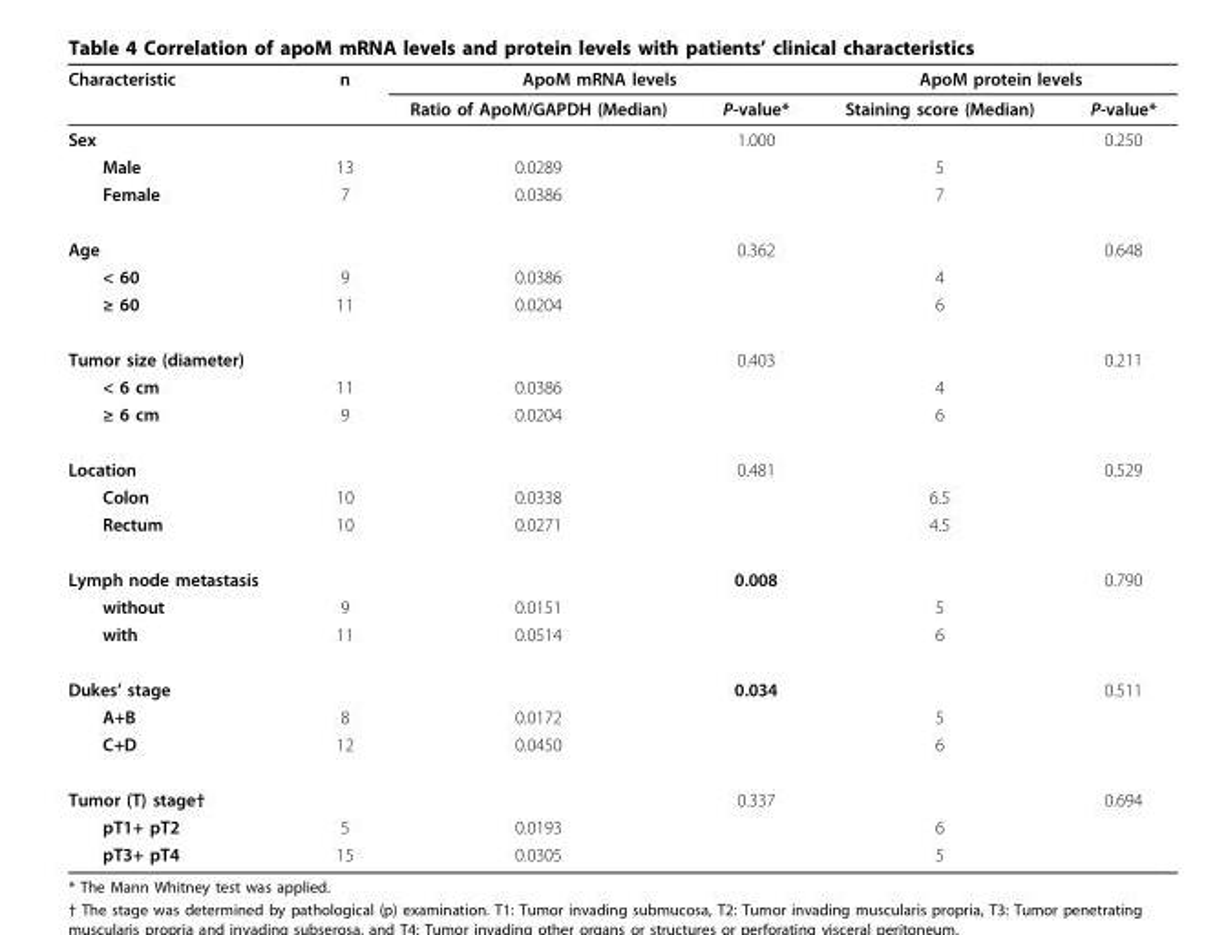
<table><thead><tr><td rowspan="2">Characteristic</td><td rowspan="2">n</td><td colspan="2">ApoM mRNA levels</td><td colspan="2">ApoM protein levels</td></tr><tr><td>Ratio of ApoM/GAPDH (Median)</td><td>P-value*</td><td>Staining score (Median)</td><td>P-value*</td></tr></thead><tbody><tr><td>Sex</td><td></td><td></td><td>1.000</td><td></td><td>0.250</td></tr><tr><td>Male</td><td>13</td><td>0.0289</td><td></td><td>5</td><td></td></tr><tr><td>Female</td><td>7</td><td>0.0386</td><td></td><td>7</td><td></td></tr><tr><td>Age</td><td></td><td></td><td>0.362</td><td></td><td>0.648</td></tr><tr><td>&lt; 60</td><td>9</td><td>0.0386</td><td></td><td>4</td><td></td></tr><tr><td>≥ 60</td><td>11</td><td>0.0204</td><td></td><td>6</td><td></td></tr><tr><td>Tumor size (diameter)</td><td></td><td></td><td>0.403</td><td></td><td>0.211</td></tr><tr><td>&lt; 6 cm</td><td>11</td><td>0.0386</td><td></td><td>4</td><td></td></tr><tr><td>≥ 6 cm</td><td>9</td><td>0.0204</td><td></td><td>6</td><td></td></tr><tr><td>Location</td><td></td><td></td><td>0.481</td><td></td><td>0.529</td></tr><tr><td>Colon</td><td>10</td><td>0.0338</td><td></td><td>6.5</td><td></td></tr><tr><td>Rectum</td><td>10</td><td>0.0271</td><td></td><td>4.5</td><td></td></tr><tr><td>Lymph node metastasis</td><td></td><td></td><td>0.008</td><td></td><td>0.790</td></tr><tr><td>without</td><td>9</td><td>0.0151</td><td></td><td>5</td><td></td></tr><tr><td>with</td><td>11</td><td>0.0514</td><td></td><td>6</td><td></td></tr><tr><td>Dukes’ stage</td><td></td><td></td><td>0.034</td><td></td><td>0.511</td></tr><tr><td>A+B</td><td>8</td><td>0.0172</td><td></td><td>5</td><td></td></tr><tr><td>C+D</td><td>12</td><td>0.0450</td><td></td><td>6</td><td></td></tr><tr><td>Tumor (T) stage†</td><td></td><td></td><td>0.337</td><td></td><td>0.694</td></tr><tr><td>pT1+ pT2</td><td>5</td><td>0.0193</td><td></td><td>6</td><td></td></tr><tr><td>pT3+ pT4</td><td>15</td><td>0.0305</td><td></td><td>5</td><td></td></tr></tbody></table>